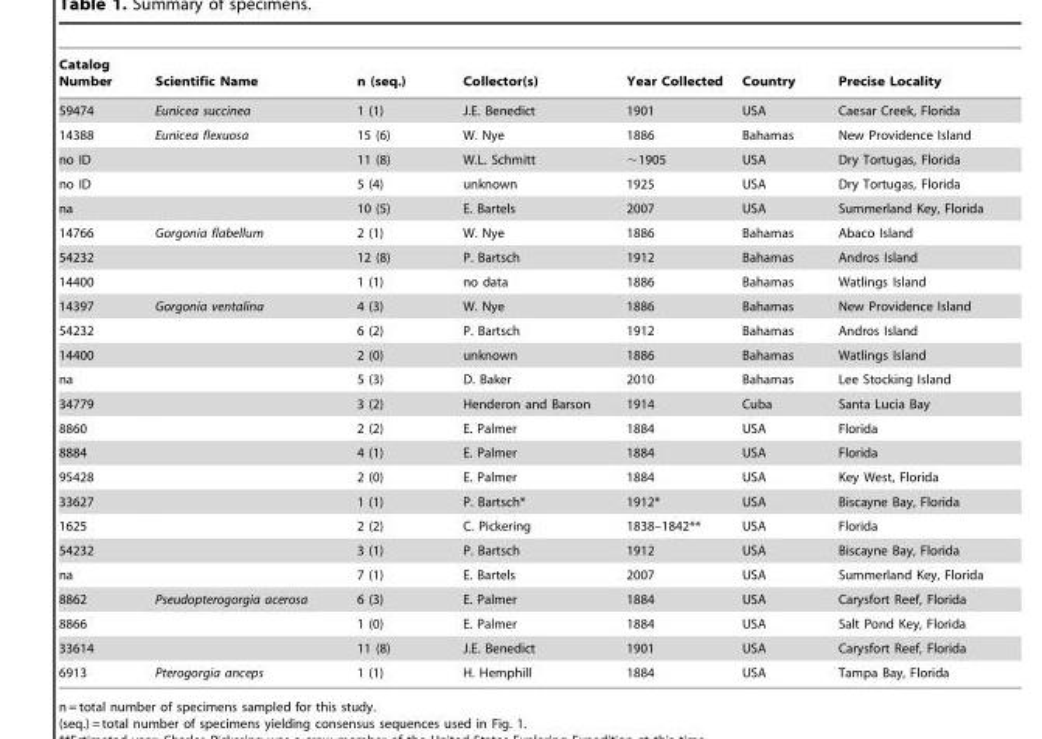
<table><thead><tr><td>Catalog Number</td><td>Scientific Name</td><td>n (seq.)</td><td>Collector(s)</td><td>Year Collected</td><td>Country</td><td>Precise Locality</td></tr></thead><tbody><tr><td>59474</td><td>Eunicea succinea</td><td>1 (1)</td><td>J.E. Benedict</td><td>1901</td><td>USA</td><td>Caesar Creek, Florida</td></tr><tr><td>14388</td><td>Eunicea flexuosa</td><td>15 (6)</td><td>W. Nye</td><td>1886</td><td>Bahamas</td><td>New Providence Island</td></tr><tr><td>no ID</td><td></td><td>11 (8)</td><td>W.L. Schmitt</td><td>∼1905</td><td>USA</td><td>Dry Tortugas, Florida</td></tr><tr><td>no ID</td><td></td><td>5 (4)</td><td>unknown</td><td>1925</td><td>USA</td><td>Dry Tortugas, Florida</td></tr><tr><td>na</td><td></td><td>10 (5)</td><td>E. Bartels</td><td>2007</td><td>USA</td><td>Summerland Key, Florida</td></tr><tr><td>14766</td><td>Gorgonia flabellum</td><td>2 (1)</td><td>W. Nye</td><td>1886</td><td>Bahamas</td><td>Abaco Island</td></tr><tr><td>54232</td><td></td><td>12 (8)</td><td>P. Bartsch</td><td>1912</td><td>Bahamas</td><td>Andros Island</td></tr><tr><td>14400</td><td></td><td>1 (1)</td><td>no data</td><td>1886</td><td>Bahamas</td><td>Watlings Island</td></tr><tr><td>14397</td><td>Gorgonia ventalina</td><td>4 (3)</td><td>W. Nye</td><td>1886</td><td>Bahamas</td><td>New Providence Island</td></tr><tr><td>54232</td><td></td><td>6 (2)</td><td>P. Bartsch</td><td>1912</td><td>Bahamas</td><td>Andros Island</td></tr><tr><td>14400</td><td></td><td>2 (0)</td><td>unknown</td><td>1886</td><td>Bahamas</td><td>Watlings Island</td></tr><tr><td>na</td><td></td><td>5 (3)</td><td>D. Baker</td><td>2010</td><td>Bahamas</td><td>Lee Stocking Island</td></tr><tr><td>34779</td><td></td><td>3 (2)</td><td>Henderon and Barson</td><td>1914</td><td>Cuba</td><td>Santa Lucia Bay</td></tr><tr><td>8860</td><td></td><td>2 (2)</td><td>E. Palmer</td><td>1884</td><td>USA</td><td>Florida</td></tr><tr><td>8884</td><td></td><td>4 (1)</td><td>E. Palmer</td><td>1884</td><td>USA</td><td>Florida</td></tr><tr><td>95428</td><td></td><td>2 (0)</td><td>E. Palmer</td><td>1884</td><td>USA</td><td>Key West, Florida</td></tr><tr><td>33627</td><td></td><td>1 (1)</td><td>P. Bartsch*</td><td>1912*</td><td>USA</td><td>Biscayne Bay, Florida</td></tr><tr><td>1625</td><td></td><td>2 (2)</td><td>C. Pickering</td><td>1838–1842**</td><td>USA</td><td>Florida</td></tr><tr><td>54232</td><td></td><td>3 (1)</td><td>P. Bartsch</td><td>1912</td><td>USA</td><td>Biscayne Bay, Florida</td></tr><tr><td>na</td><td></td><td>7 (1)</td><td>E. Bartels</td><td>2007</td><td>USA</td><td>Summerland Key, Florida</td></tr><tr><td>8862</td><td>Pseudopterogorgia acerosa</td><td>6 (3)</td><td>E. Palmer</td><td>1884</td><td>USA</td><td>Carysfort Reef, Florida</td></tr><tr><td>8866</td><td></td><td>1 (0)</td><td>E. Palmer</td><td>1884</td><td>USA</td><td>Salt Pond Key, Florida</td></tr><tr><td>33614</td><td></td><td>11 (8)</td><td>J.E. Benedict</td><td>1901</td><td>USA</td><td>Carysfort Reef, Florida</td></tr><tr><td>6913</td><td>Pterogorgia anceps</td><td>1 (1)</td><td>H. Hemphill</td><td>1884</td><td>USA</td><td>Tampa Bay, Florida</td></tr></tbody></table>